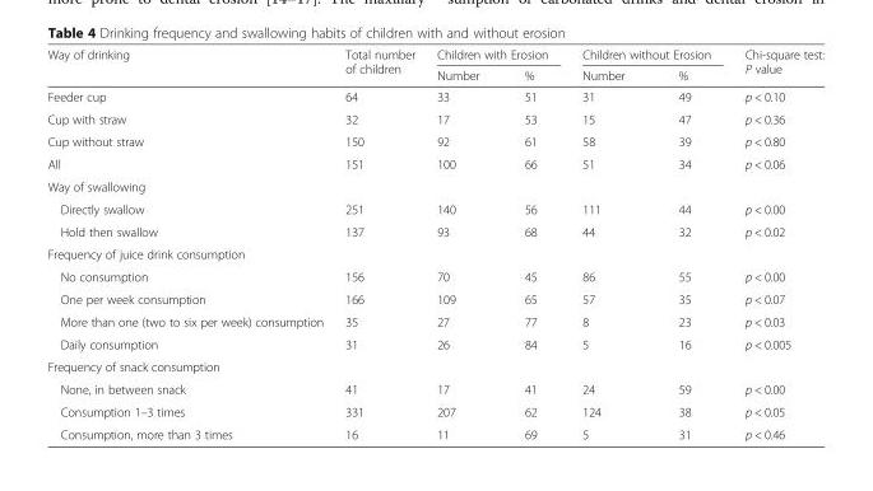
<table><thead><tr><td rowspan="2">Way of drinking</td><td rowspan="2">Total number of children</td><td colspan="2">Children with Erosion</td><td colspan="2">Children without Erosion</td><td rowspan="2">Chi-square test: P value</td></tr><tr><td>Number</td><td>%</td><td>Number</td><td>%</td></tr></thead><tbody><tr><td>Feeder cup</td><td>64</td><td>33</td><td>51</td><td>31</td><td>49</td><td>p &lt; 0.10</td></tr><tr><td>Cup with straw</td><td>32</td><td>17</td><td>53</td><td>15</td><td>47</td><td>p &lt; 0.36</td></tr><tr><td>Cup without straw</td><td>150</td><td>92</td><td>61</td><td>58</td><td>39</td><td>p &lt; 0.80</td></tr><tr><td>All</td><td>151</td><td>100</td><td>66</td><td>51</td><td>34</td><td>p &lt; 0.06</td></tr><tr><td colspan="7">Way of swallowing</td></tr><tr><td>Directly swallow</td><td>251</td><td>140</td><td>56</td><td>111</td><td>44</td><td>p &lt; 0.00</td></tr><tr><td>Hold then swallow</td><td>137</td><td>93</td><td>68</td><td>44</td><td>32</td><td>p &lt; 0.02</td></tr><tr><td colspan="7">Frequency of juice drink consumption</td></tr><tr><td>No consumption</td><td>156</td><td>70</td><td>45</td><td>86</td><td>55</td><td>p &lt; 0.00</td></tr><tr><td>One per week consumption</td><td>166</td><td>109</td><td>65</td><td>57</td><td>35</td><td>p &lt; 0.07</td></tr><tr><td>More than one (two to six per week) consumption</td><td>35</td><td>27</td><td>77</td><td>8</td><td>23</td><td>p &lt; 0.03</td></tr><tr><td>Daily consumption</td><td>31</td><td>26</td><td>84</td><td>5</td><td>16</td><td>p &lt; 0.005</td></tr><tr><td colspan="7">Frequency of snack consumption</td></tr><tr><td>None, in between snack</td><td>41</td><td>17</td><td>41</td><td>24</td><td>59</td><td>p &lt; 0.00</td></tr><tr><td>Consumption 1–3 times</td><td>331</td><td>207</td><td>62</td><td>124</td><td>38</td><td>p &lt; 0.05</td></tr><tr><td>Consumption, more than 3 times</td><td>16</td><td>11</td><td>69</td><td>5</td><td>31</td><td>p &lt; 0.46</td></tr></tbody></table>